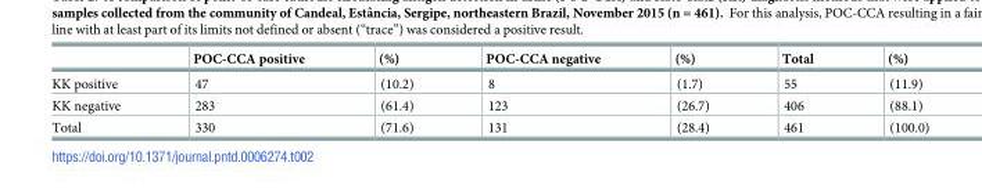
<table><thead><tr><td></td><td>POC-CCA positive</td><td>(%)</td><td>POC-CCA negative</td><td>(%)</td><td>Total</td><td>(%)</td></tr></thead><tbody><tr><td>KK positive</td><td>47</td><td>(10.2)</td><td>8</td><td>(1.7)</td><td>55</td><td>(11.9)</td></tr><tr><td>KK negative</td><td>283</td><td>(61.4)</td><td>123</td><td>(26.7)</td><td>406</td><td>(88.1)</td></tr><tr><td>Total</td><td>330</td><td>(71.6)</td><td>131</td><td>(28.4)</td><td>461</td><td>(100.0)</td></tr></tbody></table>